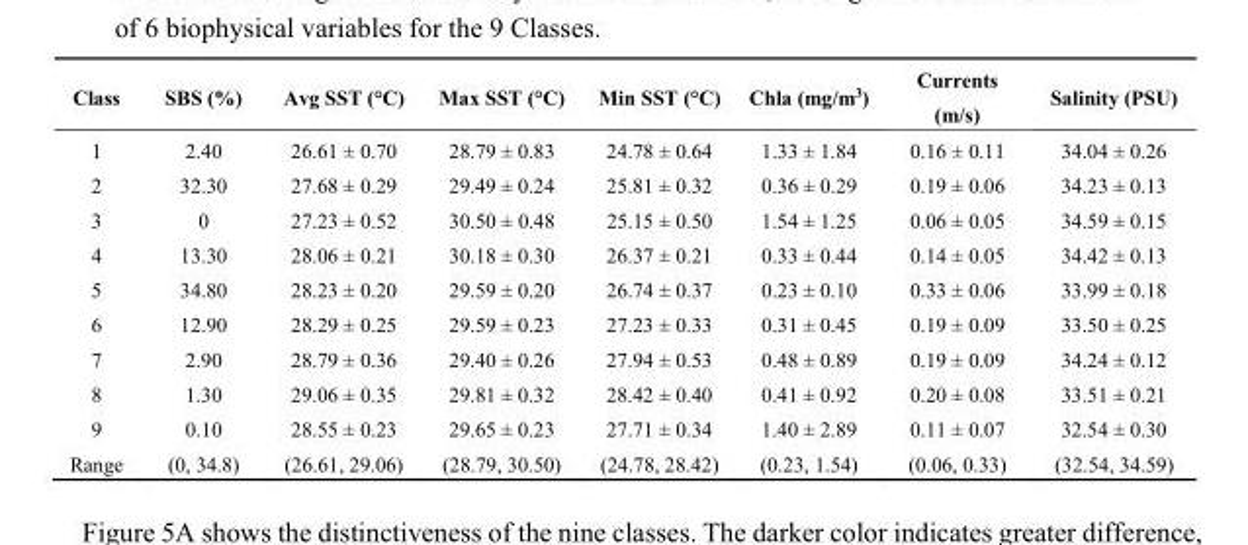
<table><thead><tr><td>Class</td><td>SBS (%)</td><td>Avg SST (°C)</td><td>Max SST (°C)</td><td>Min SST (°C)</td><td>Chla (mg/m<sup>3</sup>)</td><td>Currents (m/s)</td><td>Salinity (PSU)</td></tr></thead><tbody><tr><td>1</td><td>2.40</td><td>26.61 ± 0.70</td><td>28.79 ± 0.83</td><td>24.78 ± 0.64</td><td>1.33 ± 1.84</td><td>0.16 ± 0.11</td><td>34.04 ± 0.26</td></tr><tr><td>2</td><td>32.30</td><td>27.68 ± 0.29</td><td>29.49 ± 0.24</td><td>25.81 ± 0.32</td><td>0.36 ± 0.29</td><td>0.19 ± 0.06</td><td>34.23 ± 0.13</td></tr><tr><td>3</td><td>0</td><td>27.23 ± 0.52</td><td>30.50 ± 0.48</td><td>25.15 ± 0.50</td><td>1.54 ± 1.25</td><td>0.06 ± 0.05</td><td>34.59 ± 0.15</td></tr><tr><td>4</td><td>13.30</td><td>28.06 ± 0.21</td><td>30.18 ± 0.30</td><td>26.37 ± 0.21</td><td>0.33 ± 0.44</td><td>0.14 ± 0.05</td><td>34.42 ± 0.13</td></tr><tr><td>5</td><td>34.80</td><td>28.23 ± 0.20</td><td>29.59 ± 0.20</td><td>26.74 ± 0.37</td><td>0.23 ± 0.10</td><td>0.33 ± 0.06</td><td>33.99 ± 0.18</td></tr><tr><td>6</td><td>12.90</td><td>28.29 ± 0.25</td><td>29.59 ± 0.23</td><td>27.23 ± 0.33</td><td>0.31 ± 0.45</td><td>0.19 ± 0.09</td><td>33.50 ± 0.25</td></tr><tr><td>7</td><td>2.90</td><td>28.79 ± 0.36</td><td>29.40 ± 0.26</td><td>27.94 ± 0.53</td><td>0.48 ± 0.89</td><td>0.19 ± 0.09</td><td>34.24 ± 0.12</td></tr><tr><td>8</td><td>1.30</td><td>29.06 ± 0.35</td><td>29.81 ± 0.32</td><td>28.42 ± 0.40</td><td>0.41 ± 0.92</td><td>0.20 ± 0.08</td><td>33.51 ± 0.21</td></tr><tr><td>9</td><td>0.10</td><td>28.55 ± 0.23</td><td>29.65 ± 0.23</td><td>27.71 ± 0.34</td><td>1.40 ± 2.89</td><td>0.11 ± 0.07</td><td>32.54 ± 0.30</td></tr><tr><td>Range</td><td>(0, 34.8)</td><td>(26.61, 29.06)</td><td>(28.79, 30.50)</td><td>(24.78, 28.42)</td><td>(0.23, 1.54)</td><td>(0.06, 0.33)</td><td>(32.54, 34.59)</td></tr></tbody></table>